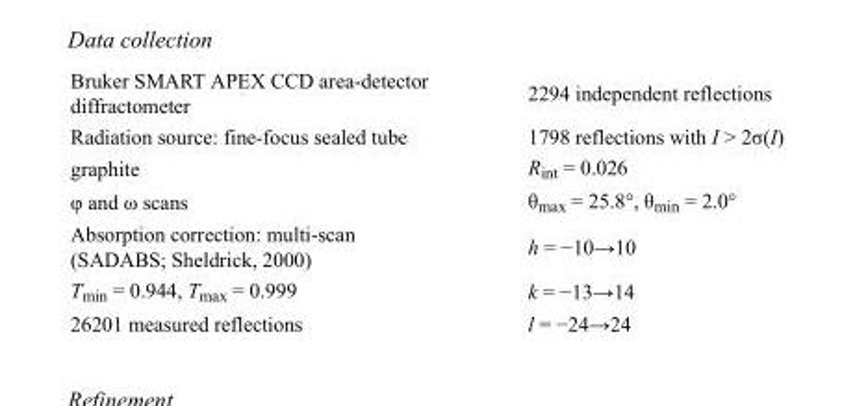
<table><tbody><tr><td>Bruker SMART APEX CCD area-detector diffractometer</td><td>2294 independent reflections</td></tr><tr><td>Radiation source: fine-focus sealed tube</td><td>1798 reflections with I &gt; 2σ(I)</td></tr><tr><td>graphite</td><td>R<sub>int</sub> = 0.026</td></tr><tr><td>φ and ω scans</td><td>θ<sub>max</sub> = 25.8°, θ<sub>min</sub> = 2.0°</td></tr><tr><td>Absorption correction: multi-scan (SADABS; Sheldrick, 2000)</td><td>h = −10→10</td></tr><tr><td>T<sub>min</sub> = 0.944, T<sub>max</sub> = 0.999</td><td>k = −13→14</td></tr><tr><td>26201 measured reflections</td><td>l = −24→24</td></tr></tbody></table>